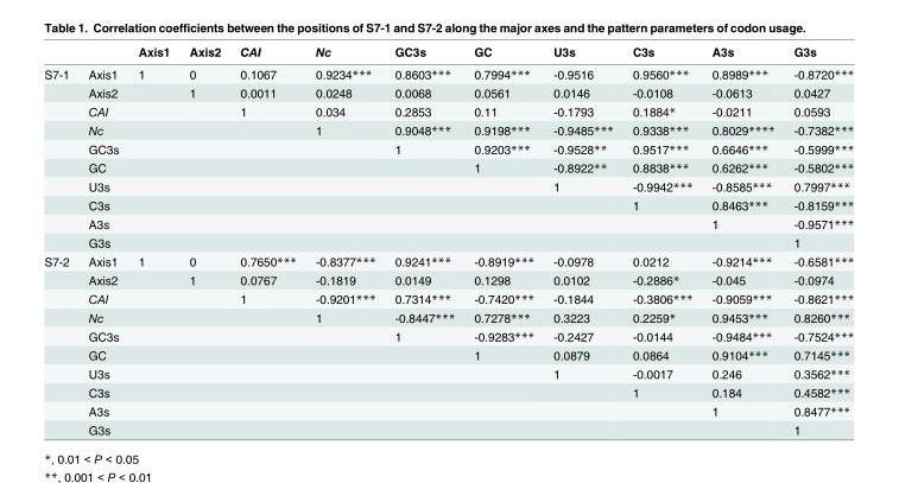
<table><thead><tr><td></td><td></td><td>Axis1</td><td>Axis2</td><td>CAI</td><td>Nc</td><td>GC3s</td><td>GC</td><td>U3s</td><td>C3s</td><td>A3s</td><td>G3s</td></tr></thead><tbody><tr><td rowspan="10">S7-1</td><td>Axis1</td><td>1</td><td>0</td><td>0.1067</td><td>0.9234***</td><td>0.8603***</td><td>0.7994***</td><td>-0.9516</td><td>0.9560***</td><td>0.8989***</td><td>-0.8720***</td></tr><tr><td>Axis2</td><td></td><td>1</td><td>0.0011</td><td>0.0248</td><td>0.0068</td><td>0.0561</td><td>0.0146</td><td>-0.0108</td><td>-0.0613</td><td>0.0427</td></tr><tr><td>CAI</td><td></td><td></td><td>1</td><td>0.034</td><td>0.2853</td><td>0.11</td><td>-0.1793</td><td>0.1884*</td><td>-0.0211</td><td>0.0593</td></tr><tr><td>Nc</td><td></td><td></td><td></td><td>1</td><td>0.9048***</td><td>0.9198***</td><td>-0.9485***</td><td>0.9338***</td><td>0.8029****</td><td>-0.7382***</td></tr><tr><td>GC3s</td><td></td><td></td><td></td><td></td><td>1</td><td>0.9203***</td><td>-0.9528**</td><td>0.9517***</td><td>0.6646***</td><td>-0.5999***</td></tr><tr><td>GC</td><td></td><td></td><td></td><td></td><td></td><td>1</td><td>-0.8922**</td><td>0.8838***</td><td>0.6262***</td><td>-0.5802***</td></tr><tr><td>U3s</td><td></td><td></td><td></td><td></td><td></td><td></td><td>1</td><td>-0.9942***</td><td>-0.8585***</td><td>0.7997***</td></tr><tr><td>C3s</td><td></td><td></td><td></td><td></td><td></td><td></td><td></td><td>1</td><td>0.8463***</td><td>-0.8159***</td></tr><tr><td>A3s</td><td></td><td></td><td></td><td></td><td></td><td></td><td></td><td></td><td>1</td><td>-0.9571***</td></tr><tr><td>G3s</td><td></td><td></td><td></td><td></td><td></td><td></td><td></td><td></td><td></td><td>1</td></tr><tr><td rowspan="10">S7-2</td><td>Axis1</td><td>1</td><td>0</td><td>0.7650***</td><td>-0.8377***</td><td>0.9241***</td><td>-0.8919***</td><td>-0.0978</td><td>0.0212</td><td>-0.9214***</td><td>-0.6581***</td></tr><tr><td>Axis2</td><td></td><td>1</td><td>0.0767</td><td>-0.1819</td><td>0.0149</td><td>0.1298</td><td>0.0102</td><td>-0.2886*</td><td>-0.045</td><td>-0.0974</td></tr><tr><td>CAI</td><td></td><td></td><td>1</td><td>-0.9201***</td><td>0.7314***</td><td>-0.7420***</td><td>-0.1844</td><td>-0.3806***</td><td>-0.9059***</td><td>-0.8621***</td></tr><tr><td>Nc</td><td></td><td></td><td></td><td>1</td><td>-0.8447***</td><td>0.7278***</td><td>0.3223</td><td>0.2259*</td><td>0.9453***</td><td>0.8260***</td></tr><tr><td>GC3s</td><td></td><td></td><td></td><td></td><td>1</td><td>-0.9283***</td><td>-0.2427</td><td>-0.0144</td><td>-0.9484***</td><td>-0.7524***</td></tr><tr><td>GC</td><td></td><td></td><td></td><td></td><td></td><td>1</td><td>0.0879</td><td>0.0864</td><td>0.9104***</td><td>0.7145***</td></tr><tr><td>U3s</td><td></td><td></td><td></td><td></td><td></td><td></td><td>1</td><td>-0.0017</td><td>0.246</td><td>0.3562***</td></tr><tr><td>C3s</td><td></td><td></td><td></td><td></td><td></td><td></td><td></td><td>1</td><td>0.184</td><td>0.4582***</td></tr><tr><td>A3s</td><td></td><td></td><td></td><td></td><td></td><td></td><td></td><td></td><td>1</td><td>0.8477***</td></tr><tr><td>G3s</td><td></td><td></td><td></td><td></td><td></td><td></td><td></td><td></td><td></td><td>1</td></tr></tbody></table>